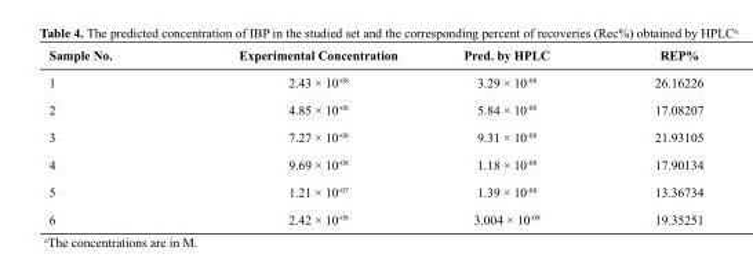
<table><thead><tr><td>Sample No.</td><td>Experimental Concentration</td><td>Pred. by HPLC</td><td>REP%</td></tr></thead><tbody><tr><td>1</td><td>2.43 × 10<sup>-08</sup></td><td>3.29 × 10<sup>-08</sup></td><td>26.16226</td></tr><tr><td>2</td><td>4.85 × 10<sup>-08</sup></td><td>5.84 × 10<sup>-08</sup></td><td>17.08207</td></tr><tr><td>3</td><td>7.27 × 10<sup>-08</sup></td><td>9.31 × 10<sup>-08</sup></td><td>21.93105</td></tr><tr><td>4</td><td>9.69 × 10<sup>-08</sup></td><td>1.18 × 10<sup>-08</sup></td><td>17.90134</td></tr><tr><td>5</td><td>1.21 × 10<sup>-07</sup></td><td>1.39 × 10<sup>-08</sup></td><td>13.36734</td></tr><tr><td>6</td><td>2.42 × 10<sup>-08</sup></td><td>3.004 × 10<sup>-08</sup></td><td>19.35251</td></tr></tbody></table>